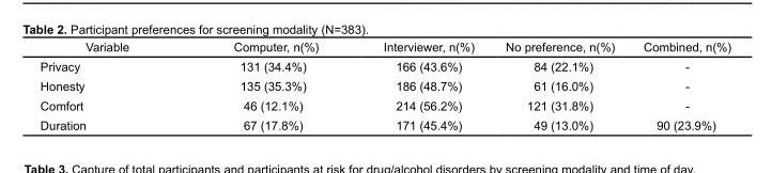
<table><thead><tr><td>Variable</td><td>Computer, n(%)</td><td>Interviewer, n(%)</td><td>No preference, n(%)</td><td>Combined, n(%)</td></tr></thead><tbody><tr><td>Privacy</td><td>131 (34.4%)</td><td>166 (43.6%)</td><td>84 (22.1%)</td><td>-</td></tr><tr><td>Honesty</td><td>135 (35.3%)</td><td>186 (48.7%)</td><td>61 (16.0%)</td><td>-</td></tr><tr><td>Comfort</td><td>46 (12.1%)</td><td>214 (56.2%)</td><td>121 (31.8%)</td><td>-</td></tr><tr><td>Duration</td><td>67 (17.8%)</td><td>171 (45.4%)</td><td>49 (13.0%)</td><td>90 (23.9%)</td></tr></tbody></table>